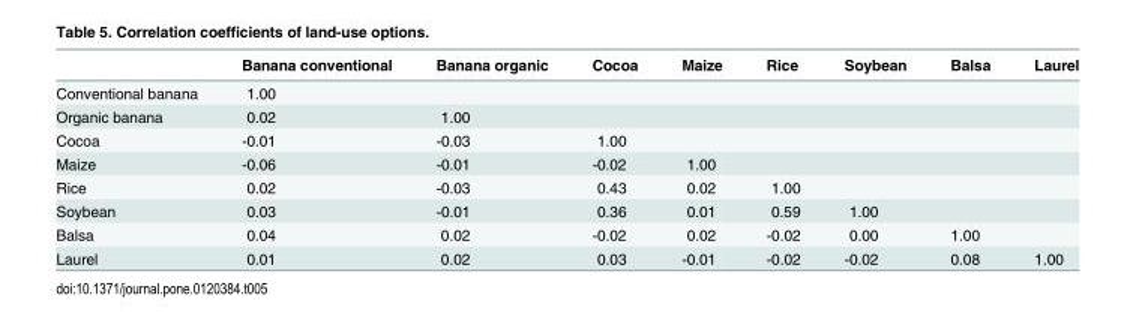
<table><thead><tr><td></td><td>Banana conventional</td><td>Banana organic</td><td>Cocoa</td><td>Maize</td><td>Rice</td><td>Soybean</td><td>Balsa</td><td>Laurel</td></tr></thead><tbody><tr><td>Conventional banana</td><td>1.00</td><td colspan="7"></td></tr><tr><td>Organic banana</td><td>0.02</td><td>1.00</td><td colspan="6"></td></tr><tr><td>Cocoa</td><td>-0.01</td><td>-0.03</td><td>1.00</td><td colspan="5"></td></tr><tr><td>Maize</td><td>-0.06</td><td>-0.01</td><td>-0.02</td><td>1.00</td><td colspan="4"></td></tr><tr><td>Rice</td><td>0.02</td><td>-0.03</td><td>0.43</td><td>0.02</td><td>1.00</td><td colspan="3"></td></tr><tr><td>Soybean</td><td>0.03</td><td>-0.01</td><td>0.36</td><td>0.01</td><td>0.59</td><td>1.00</td><td colspan="2"></td></tr><tr><td>Balsa</td><td>0.04</td><td>0.02</td><td>-0.02</td><td>0.02</td><td>-0.02</td><td>0.00</td><td>1.00</td><td></td></tr><tr><td>Laurel</td><td>0.01</td><td>0.02</td><td>0.03</td><td>-0.01</td><td>-0.02</td><td>-0.02</td><td>0.08</td><td>1.00</td></tr></tbody></table>